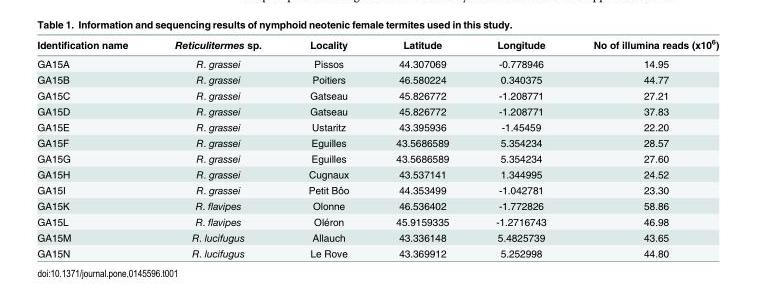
<table><thead><tr><td>Identification name</td><td>Reticulitermes sp.</td><td>Locality</td><td>Latitude</td><td>Longitude</td><td>No of illumina reads (x10<sup>6</sup>)</td></tr></thead><tbody><tr><td>GA15A</td><td>R. grassei</td><td>Pissos</td><td>44.307069</td><td>-0.778946</td><td>14.95</td></tr><tr><td>GA15B</td><td>R. grassei</td><td>Poitiers</td><td>46.580224</td><td>0.340375</td><td>44.77</td></tr><tr><td>GA15C</td><td>R. grassei</td><td>Gatseau</td><td>45.826772</td><td>-1.208771</td><td>27.21</td></tr><tr><td>GA15D</td><td>R. grassei</td><td>Gatseau</td><td>45.826772</td><td>-1.208771</td><td>37.83</td></tr><tr><td>GA15E</td><td>R. grassei</td><td>Ustaritz</td><td>43.395936</td><td>-1.45459</td><td>22.20</td></tr><tr><td>GA15F</td><td>R. grassei</td><td>Eguilles</td><td>43.5686589</td><td>5.354234</td><td>28.57</td></tr><tr><td>GA15G</td><td>R. grassei</td><td>Eguilles</td><td>43.5686589</td><td>5.354234</td><td>27.60</td></tr><tr><td>GA15H</td><td>R. grassei</td><td>Cugnaux</td><td>43.537141</td><td>1.344995</td><td>24.52</td></tr><tr><td>GA15I</td><td>R. grassei</td><td>Petit Bôo</td><td>44.353499</td><td>-1.042781</td><td>23.30</td></tr><tr><td>GA15K</td><td>R. flavipes</td><td>Olonne</td><td>46.536402</td><td>-1.772826</td><td>58.86</td></tr><tr><td>GA15L</td><td>R. flavipes</td><td>Oléron</td><td>45.9159335</td><td>-1.2716743</td><td>46.98</td></tr><tr><td>GA15M</td><td>R. lucifugus</td><td>Allauch</td><td>43.336148</td><td>5.4825739</td><td>43.65</td></tr><tr><td>GA15N</td><td>R. lucifugus</td><td>Le Rove</td><td>43.369912</td><td>5.252998</td><td>44.80</td></tr></tbody></table>